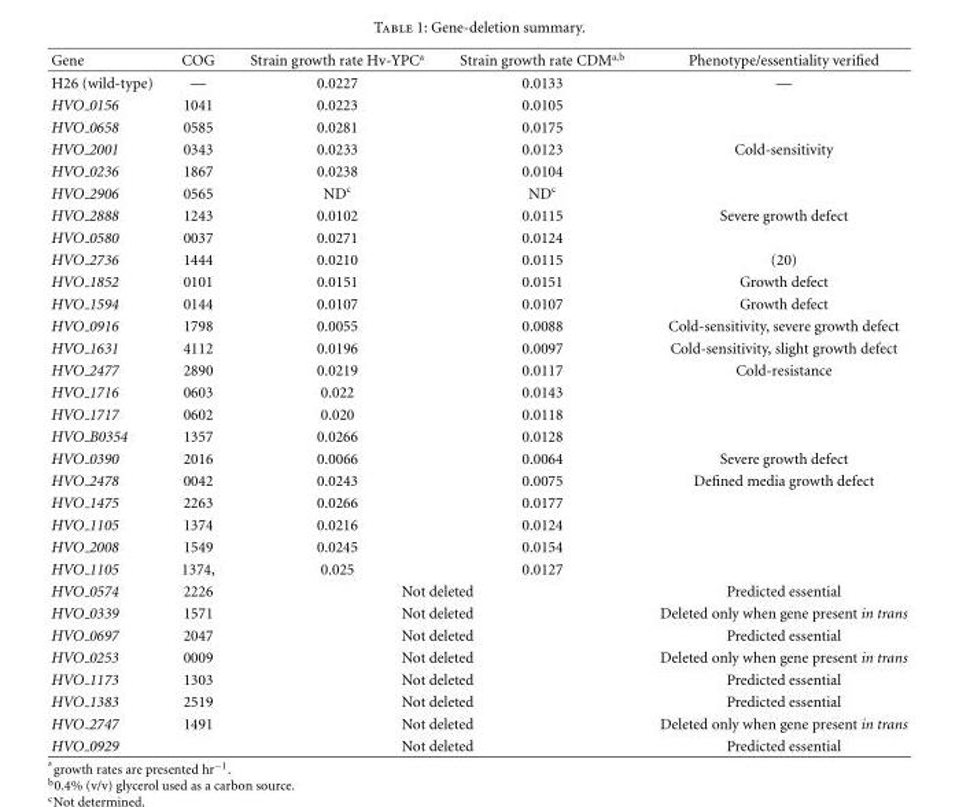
<table><thead><tr><td>Gene</td><td>COG</td><td>Strain growth rate Hv-YPC<sup>a</sup></td><td>Strain growth rate CDM<sup>a,b</sup></td><td>Phenotype/essentiality verified</td></tr></thead><tbody><tr><td>H26 (wild-type)</td><td>—</td><td>0.0227</td><td>0.0133</td><td>—</td></tr><tr><td>HVO 0156</td><td>1041</td><td>0.0223</td><td>0.0105</td><td></td></tr><tr><td>HVO 0658</td><td>0585</td><td>0.0281</td><td>0.0175</td><td></td></tr><tr><td>HVO 2001</td><td>0343</td><td>0.0233</td><td>0.0123</td><td>Cold-sensitivity</td></tr><tr><td>HVO 0236</td><td>1867</td><td>0.0238</td><td>0.0104</td><td></td></tr><tr><td>HVO 2906</td><td>0565</td><td>ND<sup>c</sup></td><td>ND<sup>c</sup></td><td></td></tr><tr><td>HVO 2888</td><td>1243</td><td>0.0102</td><td>0.0115</td><td>Severe growth defect</td></tr><tr><td>HVO 0580</td><td>0037</td><td>0.0271</td><td>0.0124</td><td></td></tr><tr><td>HVO 2736</td><td>1444</td><td>0.0210</td><td>0.0115</td><td>(20)</td></tr><tr><td>HVO 1852</td><td>0101</td><td>0.0151</td><td>0.0151</td><td>Growth defect</td></tr><tr><td>HVO 1594</td><td>0144</td><td>0.0107</td><td>0.0107</td><td>Growth defect</td></tr><tr><td>HVO 0916</td><td>1798</td><td>0.0055</td><td>0.0088</td><td>Cold-sensitivity, severe growth defect</td></tr><tr><td>HVO 1631</td><td>4112</td><td>0.0196</td><td>0.0097</td><td>Cold-sensitivity, slight growth defect</td></tr><tr><td>HVO 2477</td><td>2890</td><td>0.0219</td><td>0.0117</td><td>Cold-resistance</td></tr><tr><td>HVO 1716</td><td>0603</td><td>0.022</td><td>0.0143</td><td></td></tr><tr><td>HVO 1717</td><td>0602</td><td>0.020</td><td>0.0118</td><td></td></tr><tr><td>HVO B0354</td><td>1357</td><td>0.0266</td><td>0.0128</td><td></td></tr><tr><td>HVO 0390</td><td>2016</td><td>0.0066</td><td>0.0064</td><td>Severe growth defect</td></tr><tr><td>HVO 2478</td><td>0042</td><td>0.0243</td><td>0.0075</td><td>Defined media growth defect</td></tr><tr><td>HVO 1475</td><td>2263</td><td>0.0266</td><td>0.0177</td><td></td></tr><tr><td>HVO 1105</td><td>1374</td><td>0.0216</td><td>0.0124</td><td></td></tr><tr><td>HVO 2008</td><td>1549</td><td>0.0245</td><td>0.0154</td><td></td></tr><tr><td>HVO 1105</td><td>1374,</td><td>0.025</td><td>0.0127</td><td></td></tr><tr><td>HVO 0574</td><td>2226</td><td colspan="2">Not deleted</td><td>Predicted essential</td></tr><tr><td>HVO 0339</td><td>1571</td><td colspan="2">Not deleted</td><td>Deleted only when gene present in trans</td></tr><tr><td>HVO 0697</td><td>2047</td><td colspan="2">Not deleted</td><td>Predicted essential</td></tr><tr><td>HVO 0253</td><td>0009</td><td colspan="2">Not deleted</td><td>Deleted only when gene present in trans</td></tr><tr><td>HVO 1173</td><td>1303</td><td colspan="2">Not deleted</td><td>Predicted essential</td></tr><tr><td>HVO 1383</td><td>2519</td><td colspan="2">Not deleted</td><td>Predicted essential</td></tr><tr><td>HVO 2747</td><td>1491</td><td colspan="2">Not deleted</td><td>Deleted only when gene present in trans</td></tr><tr><td>HVO 0929</td><td></td><td colspan="2">Not deleted</td><td>Predicted essential</td></tr></tbody></table>